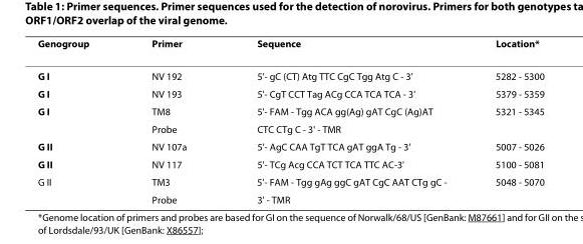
<table><thead><tr><td>Genogroup</td><td>Primer</td><td>Sequence</td><td>Location*</td></tr></thead><tbody><tr><td>G I</td><td>NV 192</td><td>5&#x27;- gC (CT) Atg TTC CgC Tgg Atg C - 3&#x27;</td><td>5282 - 5300</td></tr><tr><td>G I</td><td>NV 193</td><td>5&#x27;- CgT CCT Tag ACg CCA TCA TCA - 3&#x27;</td><td>5379 - 5359</td></tr><tr><td rowspan="2">G I</td><td>TM8</td><td>5&#x27;- FAM - Tgg ACA gg(Ag) gAT CgC (Ag)AT</td><td>5321 - 5345</td></tr><tr><td>Probe</td><td>CTC CTg C - 3&#x27; - TMR</td><td></td></tr><tr><td>G II</td><td>NV 107a</td><td>5&#x27;- AgC CAA TgT TCA gAT ggA Tg - 3&#x27;</td><td>5007 - 5026</td></tr><tr><td>G II</td><td>NV 117</td><td>5&#x27;- TCg Acg CCA TCT TCA TTC AC-3&#x27;</td><td>5100 - 5081</td></tr><tr><td rowspan="2">G II</td><td>TM3</td><td>5&#x27;- FAM - Tgg gAg ggC gAT CgC AAT CTg gC -</td><td>5048 - 5070</td></tr><tr><td>Probe</td><td>3&#x27; - TMR</td><td></td></tr></tbody></table>